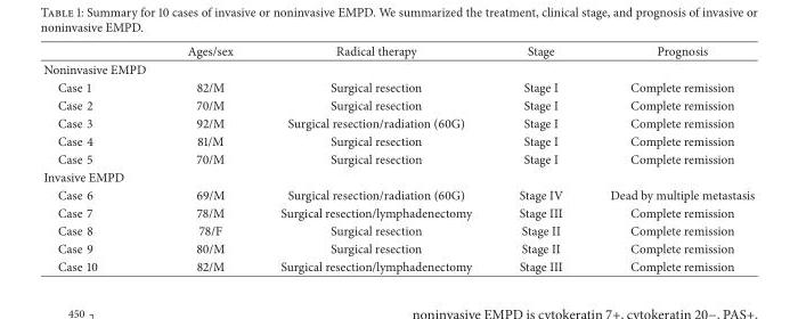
<table><thead><tr><td></td><td>Ages/sex</td><td>Radical therapy</td><td>Stage</td><td>Prognosis</td></tr></thead><tbody><tr><td colspan="5">Noninvasive EMPD</td></tr><tr><td>Case 1</td><td>82/M</td><td>Surgical resection</td><td>Stage I</td><td>Complete remission</td></tr><tr><td>Case 2</td><td>70/M</td><td>Surgical resection</td><td>Stage I</td><td>Complete remission</td></tr><tr><td>Case 3</td><td>92/M</td><td>Surgical resection/radiation (60G)</td><td>Stage I</td><td>Complete remission</td></tr><tr><td>Case 4</td><td>81/M</td><td>Surgical resection</td><td>Stage I</td><td>Complete remission</td></tr><tr><td>Case 5</td><td>70/M</td><td>Surgical resection</td><td>Stage I</td><td>Complete remission</td></tr><tr><td colspan="5">Invasive EMPD</td></tr><tr><td>Case 6</td><td>69/M</td><td>Surgical resection/radiation (60G)</td><td>Stage IV</td><td>Dead by multiple metastasis</td></tr><tr><td>Case 7</td><td>78/M</td><td>Surgical resection/lymphadenectomy</td><td>Stage III</td><td>Complete remission</td></tr><tr><td>Case 8</td><td>78/F</td><td>Surgical resection</td><td>Stage II</td><td>Complete remission</td></tr><tr><td>Case 9</td><td>80/M</td><td>Surgical resection</td><td>Stage II</td><td>Complete remission</td></tr><tr><td>Case 10</td><td>82/M</td><td>Surgical resection/lymphadenectomy</td><td>Stage III</td><td>Complete remission</td></tr></tbody></table>